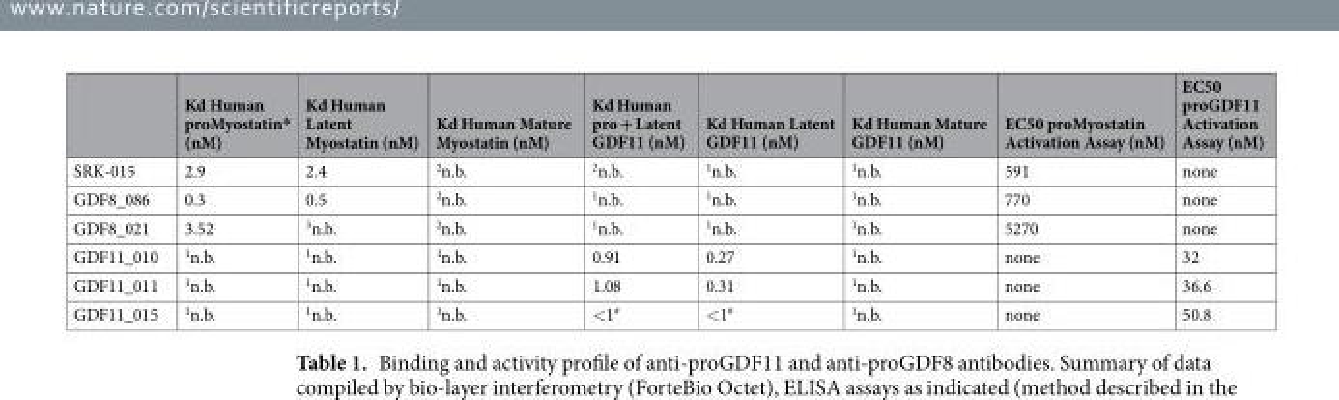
<table><thead><tr><td></td><td>Kd Human proMyostatin* (nM)</td><td>Kd Human Latent Myostatin (nM)</td><td>Kd Human Mature Myostatin (nM)</td><td>Kd Human pro + Latent GDF11 (nM)</td><td>Kd Human Latent GDF11 (nM)</td><td>Kd Human Mature GDF11 (nM)</td><td>EC50 proMyostatin Activation Assay (nM)</td><td>EC50 proGDF11 Activation Assay (nM)</td></tr></thead><tbody><tr><td>SRK-015</td><td>2.9</td><td>2.4</td><td><sup>2</sup>n.b.</td><td><sup>2</sup>n.b.</td><td><sup>1</sup>n.b.</td><td><sup>1</sup>n.b.</td><td>591</td><td>none</td></tr><tr><td>GDF8_086</td><td>0.3</td><td>0.5</td><td><sup>2</sup>n.b.</td><td><sup>1</sup>n.b.</td><td><sup>1</sup>n.b.</td><td><sup>1</sup>n.b.</td><td>770</td><td>none</td></tr><tr><td>GDF8_021</td><td>3.52</td><td><sup>3</sup>n.b.</td><td><sup>2</sup>n.b.</td><td><sup>1</sup>n.b.</td><td><sup>1</sup>n.b.</td><td><sup>1</sup>n.b.</td><td>5270</td><td>none</td></tr><tr><td>GDF11_010</td><td><sup>1</sup>n.b.</td><td><sup>1</sup>n.b.</td><td><sup>1</sup>n.b.</td><td>0.91</td><td>0.27</td><td><sup>1</sup>n.b.</td><td>none</td><td>32</td></tr><tr><td>GDF11_011</td><td><sup>1</sup>n.b.</td><td><sup>1</sup>n.b.</td><td><sup>1</sup>n.b.</td><td>1.08</td><td>0.31</td><td><sup>1</sup>n.b.</td><td>none</td><td>36.6</td></tr><tr><td>GDF11_015</td><td><sup>1</sup>n.b.</td><td><sup>1</sup>n.b.</td><td><sup>1</sup>n.b.</td><td>&lt;1<sup>#</sup></td><td>&lt;1<sup>#</sup></td><td><sup>1</sup>n.b.</td><td>none</td><td>50.8</td></tr></tbody></table>